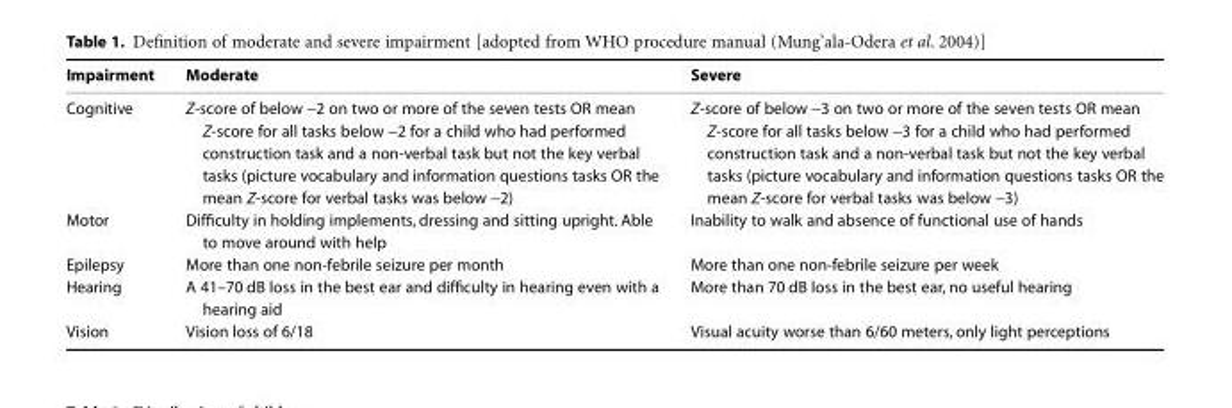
<table><thead><tr><td>Impairment</td><td>Moderate</td><td>Severe</td></tr></thead><tbody><tr><td>Cognitive</td><td>Z-score of below -2 on two or more of the seven tests OR mean Z-score for all tasks below -2 for a child who had performed construction task and a non-verbal task but not the key verbal tasks (picture vocabulary and information questions tasks OR the mean Z-score for verbal tasks was below -2)</td><td>Z-score of below -3 on two or more of the seven tests OR mean Z-score for all tasks below -3 for a child who had performed construction task and a non-verbal task but not the key verbal tasks (picture vocabulary and information questions tasks OR the mean Z-score for verbal tasks was below -3)</td></tr><tr><td>Motor</td><td>Difficulty in holding implements, dressing and sitting upright. Able to move around with help</td><td>Inability to walk and absence of functional use of hands</td></tr><tr><td>Epilepsy</td><td>More than one non-febrile seizure per month</td><td>More than one non-febrile seizure per week</td></tr><tr><td>Hearing</td><td>A 41–70 dB loss in the best ear and difficulty in hearing even with a hearing aid</td><td>More than 70 dB loss in the best ear, no useful hearing</td></tr><tr><td>Vision</td><td>Vision loss of 6/18</td><td>Visual acuity worse than 6/60 meters, only light perceptions</td></tr></tbody></table>